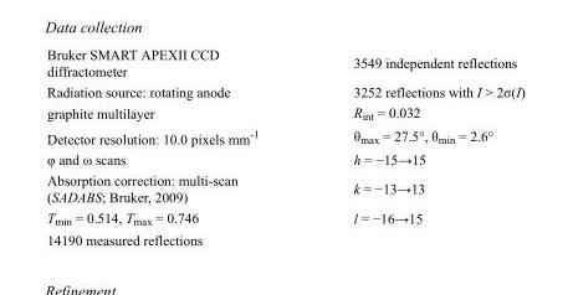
<table><tbody><tr><td>Bruker SMART APEXII CCD diffractometer</td><td>3549 independent reflections</td></tr><tr><td>Radiation source: rotating anode</td><td>3252 reflections with I &gt; 2σ(I)</td></tr><tr><td>graphite multilayer</td><td>R<sub>int</sub> = 0.032</td></tr><tr><td>Detector resolution: 10.0 pixels mm<sup>-1</sup></td><td>θ<sub>max</sub> = 27.5°, θ<sub>min</sub> = 2.6°</td></tr><tr><td>φ and ω scans</td><td>h = −15→15</td></tr><tr><td>Absorption correction: multi-scan (SADABS; Bruker, 2009)</td><td>k = −13→13</td></tr><tr><td>T<sub>min</sub> = 0.514, T<sub>max</sub> = 0.746</td><td>l = −16→15</td></tr><tr><td>14190 measured reflections</td><td></td></tr></tbody></table>